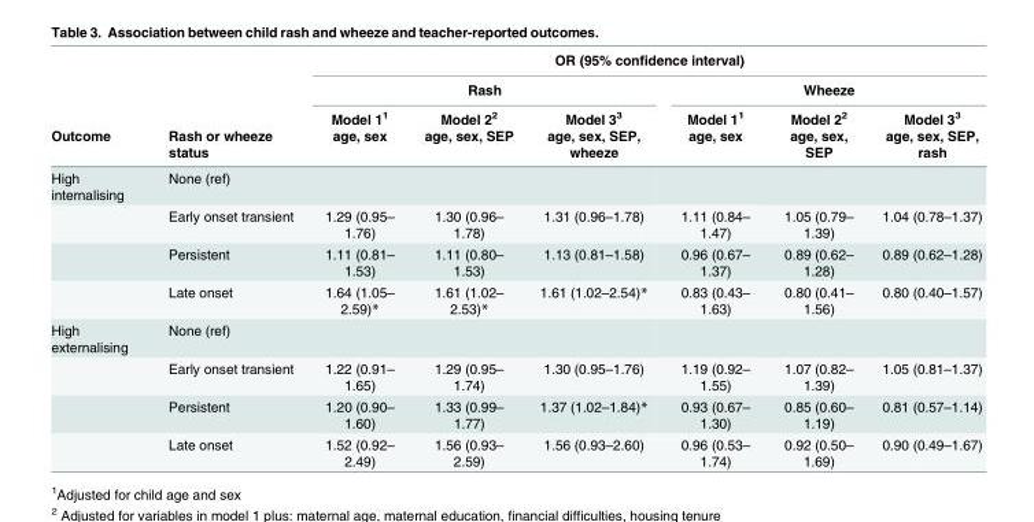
<table><thead><tr><td rowspan="4">Outcome</td><td rowspan="4">Rash or wheeze status</td><td colspan="6">OR (95% confidence interval)</td></tr><tr><td colspan="3">Rash</td><td colspan="3">Wheeze</td></tr><tr><td rowspan="2">Model 1<sup>1</sup> age, sex</td><td rowspan="2">Model 2<sup>2</sup> age, sex, SEP</td><td rowspan="2">Model 3<sup>3</sup> age, sex, SEP, wheeze</td><td rowspan="2">Model 1<sup>1</sup> age, sex</td><td rowspan="2">Model 2<sup>2</sup> age, sex, SEP</td><td rowspan="2">Model 3<sup>3</sup> age, sex, SEP, rash</td></tr><tr></tr></thead><tbody><tr><td rowspan="4">High internalising</td><td>None (ref)</td><td></td><td></td><td></td><td></td><td></td><td></td></tr><tr><td>Early onset transient</td><td>1.29 (0.95– 1.76)</td><td>1.30 (0.96– 1.78)</td><td>1.31 (0.96–1.78)</td><td>1.11 (0.84– 1.47)</td><td>1.05 (0.79– 1.39)</td><td>1.04 (0.78–1.37)</td></tr><tr><td>Persistent</td><td>1.11 (0.81– 1.53)</td><td>1.11 (0.80– 1.53)</td><td>1.13 (0.81–1.58)</td><td>0.96 (0.67– 1.37)</td><td>0.89 (0.62– 1.28)</td><td>0.89 (0.62–1.28)</td></tr><tr><td>Late onset</td><td>1.64 (1.05– 2.59)*</td><td>1.61 (1.02– 2.53)*</td><td>1.61 (1.02–2.54)*</td><td>0.83 (0.43– 1.63)</td><td>0.80 (0.41– 1.56)</td><td>0.80 (0.40–1.57)</td></tr><tr><td rowspan="4">High externalising</td><td>None (ref)</td><td></td><td></td><td></td><td></td><td></td><td></td></tr><tr><td>Early onset transient</td><td>1.22 (0.91– 1.65)</td><td>1.29 (0.95– 1.74)</td><td>1.30 (0.95–1.76)</td><td>1.19 (0.92– 1.55)</td><td>1.07 (0.82– 1.39)</td><td>1.05 (0.81–1.37)</td></tr><tr><td>Persistent</td><td>1.20 (0.90– 1.60)</td><td>1.33 (0.99– 1.77)</td><td>1.37 (1.02–1.84)*</td><td>0.93 (0.67– 1.30)</td><td>0.85 (0.60– 1.19)</td><td>0.81 (0.57–1.14)</td></tr><tr><td>Late onset</td><td>1.52 (0.92– 2.49)</td><td>1.56 (0.93– 2.59)</td><td>1.56 (0.93–2.60)</td><td>0.96 (0.53– 1.74)</td><td>0.92 (0.50– 1.69)</td><td>0.90 (0.49–1.67)</td></tr></tbody></table>